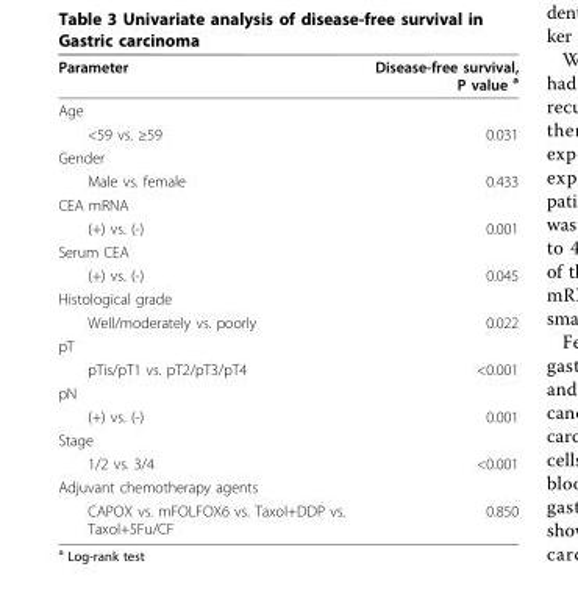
<table><thead><tr><td>Parameter</td><td>Disease-free survival, P value <sup>a</sup></td></tr></thead><tbody><tr><td colspan="2">Age</td></tr><tr><td>&lt;59 vs. ≥59</td><td>0.031</td></tr><tr><td colspan="2">Gender</td></tr><tr><td>Male vs. female</td><td>0.433</td></tr><tr><td colspan="2">CEA mRNA</td></tr><tr><td>(+) vs. (-)</td><td>0.001</td></tr><tr><td colspan="2">Serum CEA</td></tr><tr><td>(+) vs. (-)</td><td>0.045</td></tr><tr><td colspan="2">Histological grade</td></tr><tr><td>Well/moderately vs. poorly</td><td>0.022</td></tr><tr><td colspan="2">pT</td></tr><tr><td>pTis/pT1 vs. pT2/pT3/pT4</td><td>&lt;0.001</td></tr><tr><td colspan="2">pN</td></tr><tr><td>(+) vs. (-)</td><td>0.001</td></tr><tr><td colspan="2">Stage</td></tr><tr><td>1/2 vs. 3/4</td><td>&lt;0.001</td></tr><tr><td colspan="2">Adjuvant chemotherapy agents</td></tr><tr><td>CAPOX vs. mFOLFOX6 vs. Taxol+DDP vs. Taxol+5Fu/CF</td><td>0.850</td></tr></tbody></table>